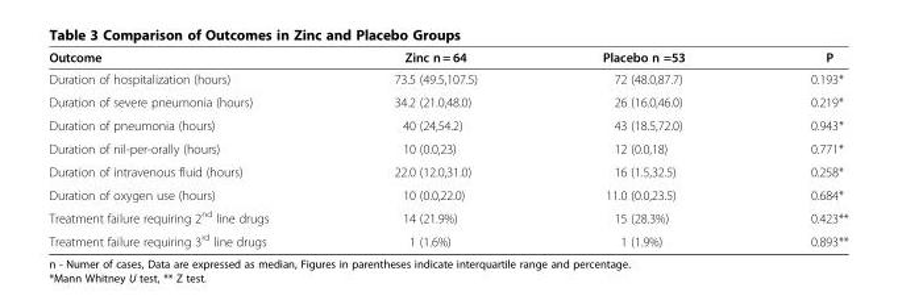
<table><thead><tr><td>Outcome</td><td>Zinc n = 64</td><td>Placebo n =53</td><td>P</td></tr></thead><tbody><tr><td>Duration of hospitalization (hours)</td><td>73.5 (49.5,107.5)</td><td>72 (48.0,87.7)</td><td>0.193*</td></tr><tr><td>Duration of severe pneumonia (hours)</td><td>34.2 (21.0,48.0)</td><td>26 (16.0,46.0)</td><td>0.219*</td></tr><tr><td>Duration of pneumonia (hours)</td><td>40 (24,54.2)</td><td>43 (18.5,72.0)</td><td>0.943*</td></tr><tr><td>Duration of nil-per-orally (hours)</td><td>10 (0.0,23)</td><td>12 (0.0,18)</td><td>0.771*</td></tr><tr><td>Duration of intravenous fluid (hours)</td><td>22.0 (12.0,31.0)</td><td>16 (1.5,32.5)</td><td>0.258*</td></tr><tr><td>Duration of oxygen use (hours)</td><td>10 (0.0,22.0)</td><td>11.0 (0.0,23.5)</td><td>0.684*</td></tr><tr><td>Treatment failure requiring 2<sup>nd</sup> line drugs</td><td>14 (21.9%)</td><td>15 (28.3%)</td><td>0.423**</td></tr><tr><td>Treatment failure requiring 3<sup>rd</sup> line drugs</td><td>1 (1.6%)</td><td>1 (1.9%)</td><td>0.893**</td></tr></tbody></table>